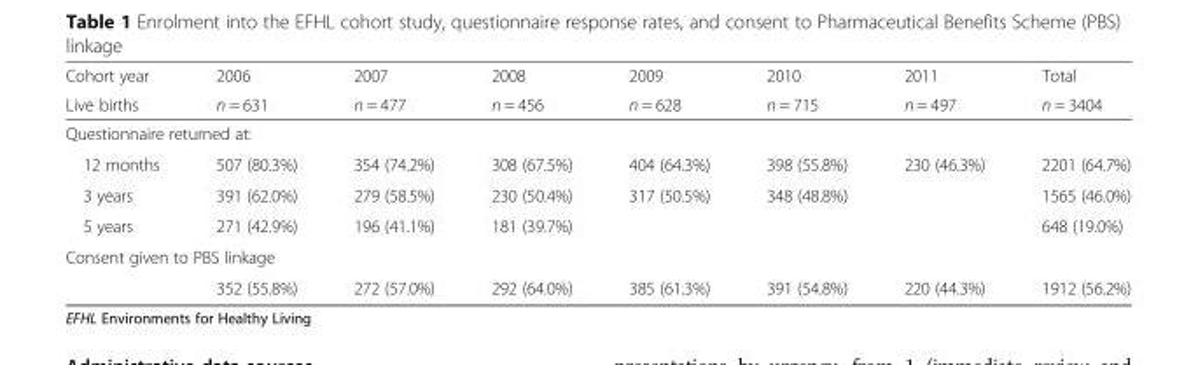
<table><thead><tr><td rowspan="2">Cohort year Live births</td><td rowspan="2">2006 n = 631</td><td rowspan="2">2007 n = 477</td><td rowspan="2">2008 n = 456</td><td rowspan="2">2009 n = 628</td><td rowspan="2">2010 n = 715</td><td rowspan="2">2011 n = 497</td><td rowspan="2">Total n = 3404</td></tr><tr></tr></thead><tbody><tr><td colspan="8">Questionnaire returned at:</td></tr><tr><td>12 months</td><td>507 (80.3%)</td><td>354 (74.2%)</td><td>308 (67.5%)</td><td>404 (64.3%)</td><td>398 (55.8%)</td><td>230 (46.3%)</td><td>2201 (64.7%)</td></tr><tr><td>3 years</td><td>391 (62.0%)</td><td>279 (58.5%)</td><td>230 (50.4%)</td><td>317 (50.5%)</td><td>348 (48.8%)</td><td></td><td>1565 (46.0%)</td></tr><tr><td>5 years</td><td>271 (42.9%)</td><td>196 (41.1%)</td><td>181 (39.7%)</td><td></td><td></td><td></td><td>648 (19.0%)</td></tr><tr><td colspan="8">Consent given to PBS linkage</td></tr><tr><td></td><td>352 (55.8%)</td><td>272 (57.0%)</td><td>292 (64.0%)</td><td>385 (61.3%)</td><td>391 (54.8%)</td><td>220 (44.3%)</td><td>1912 (56.2%)</td></tr></tbody></table>